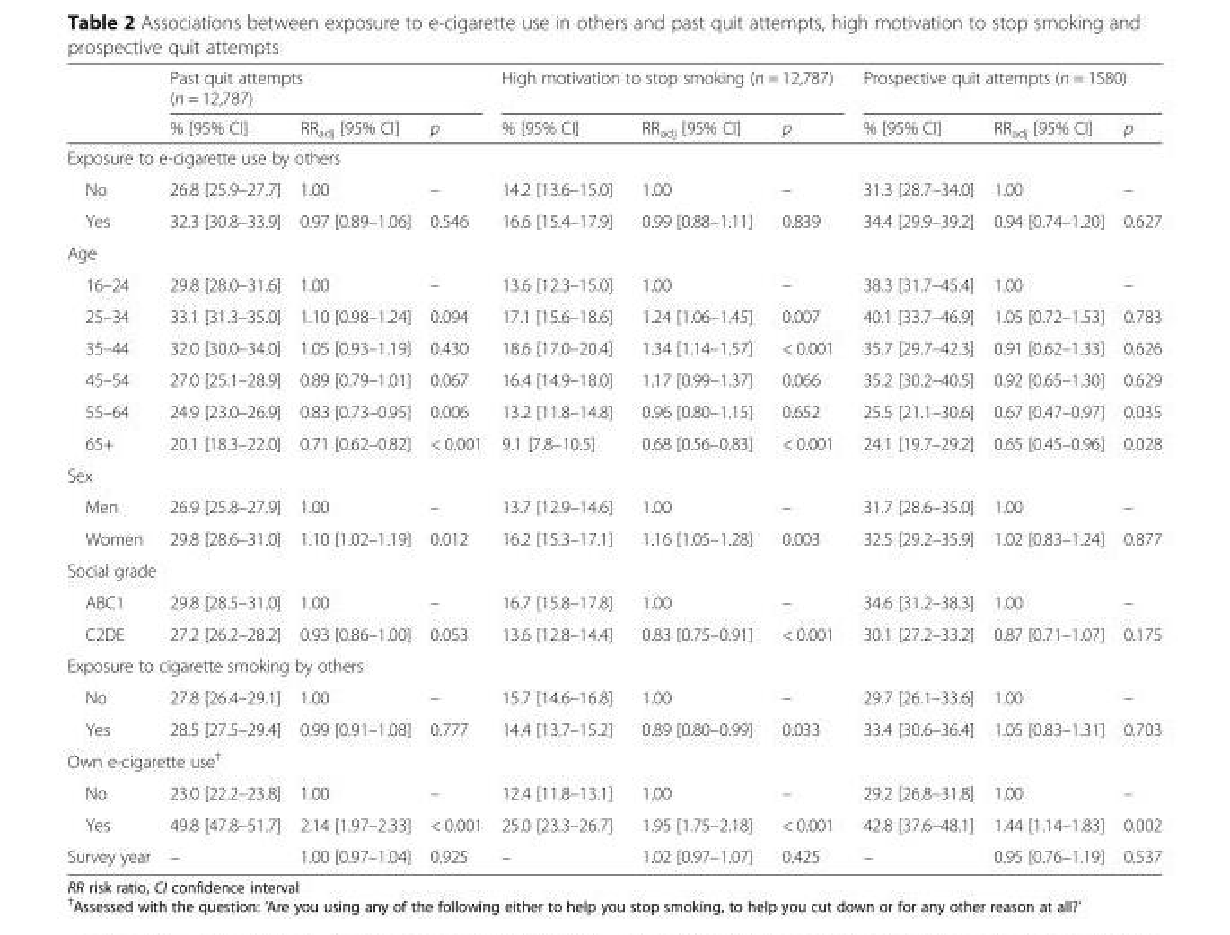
<table><thead><tr><td rowspan="2"></td><td colspan="3">Past quit attempts (n = 12,787)</td><td colspan="3">High motivation to stop smoking (n = 12,787)</td><td colspan="3">Prospective quit attempts (n = 1580)</td></tr><tr><td>% [95% CI]</td><td>RR<sub>adj</sub> [95% CI]</td><td>p</td><td>% [95% CI]</td><td>RR<sub>adj</sub> [95% CI]</td><td>p</td><td>% [95% CI]</td><td>RR<sub>adj</sub> [95% CI]</td><td>p</td></tr></thead><tbody><tr><td colspan="10">Exposure to e-cigarette use by others</td></tr><tr><td>No</td><td>26.8 [25.9–27.7]</td><td>1.00</td><td>–</td><td>14.2 [13.6–15.0]</td><td>1.00</td><td>–</td><td>31.3 [28.7–34.0]</td><td>1.00</td><td>–</td></tr><tr><td>Yes</td><td>32.3 [30.8–33.9]</td><td>0.97 [0.89–1.06]</td><td>0.546</td><td>16.6 [15.4–17.9]</td><td>0.99 [0.88–1.11]</td><td>0.839</td><td>34.4 [29.9–39.2]</td><td>0.94 [0.74–1.20]</td><td>0.627</td></tr><tr><td colspan="10">Age</td></tr><tr><td>16–24</td><td>29.8 [28.0–31.6]</td><td>1.00</td><td>–</td><td>13.6 [12.3–15.0]</td><td>1.00</td><td>–</td><td>38.3 [31.7–45.4]</td><td>1.00</td><td>–</td></tr><tr><td>25–34</td><td>33.1 [31.3–35.0]</td><td>1.10 [0.98–1.24]</td><td>0.094</td><td>17.1 [15.6–18.6]</td><td>1.24 [1.06–1.45]</td><td>0.007</td><td>40.1 [33.7–46.9]</td><td>1.05 [0.72–1.53]</td><td>0.783</td></tr><tr><td>35–44</td><td>32.0 [30.0–34.0]</td><td>1.05 [0.93–1.19]</td><td>0.430</td><td>18.6 [17.0–20.4]</td><td>1.34 [1.14–1.57]</td><td>&lt; 0.001</td><td>35.7 [29.7–42.3]</td><td>0.91 [0.62–1.33]</td><td>0.626</td></tr><tr><td>45–54</td><td>27.0 [25.1–28.9]</td><td>0.89 [0.79–1.01]</td><td>0.067</td><td>16.4 [14.9–18.0]</td><td>1.17 [0.99–1.37]</td><td>0.066</td><td>35.2 [30.2–40.5]</td><td>0.92 [0.65–1.30]</td><td>0.629</td></tr><tr><td>55–64</td><td>24.9 [23.0–26.9]</td><td>0.83 [0.73–0.95]</td><td>0.006</td><td>13.2 [11.8–14.8]</td><td>0.96 [0.80–1.15]</td><td>0.652</td><td>25.5 [21.1–30.6]</td><td>0.67 [0.47–0.97]</td><td>0.035</td></tr><tr><td>65+</td><td>20.1 [18.3–22.0]</td><td>0.71 [0.62–0.82]</td><td>&lt; 0.001</td><td>9.1 [7.8–10.5]</td><td>0.68 [0.56–0.83]</td><td>&lt; 0.001</td><td>24.1 [19.7–29.2]</td><td>0.65 [0.45–0.96]</td><td>0.028</td></tr><tr><td colspan="10">Sex</td></tr><tr><td>Men</td><td>26.9 [25.8–27.9]</td><td>1.00</td><td>–</td><td>13.7 [12.9–14.6]</td><td>1.00</td><td>–</td><td>31.7 [28.6–35.0]</td><td>1.00</td><td>–</td></tr><tr><td>Women</td><td>29.8 [28.6–31.0]</td><td>1.10 [1.02–1.19]</td><td>0.012</td><td>16.2 [15.3–17.1]</td><td>1.16 [1.05–1.28]</td><td>0.003</td><td>32.5 [29.2–35.9]</td><td>1.02 [0.83–1.24]</td><td>0.877</td></tr><tr><td colspan="10">Social grade</td></tr><tr><td>ABC1</td><td>29.8 [28.5–31.0]</td><td>1.00</td><td>–</td><td>16.7 [15.8–17.8]</td><td>1.00</td><td>–</td><td>34.6 [31.2–38.3]</td><td>1.00</td><td>–</td></tr><tr><td>C2DE</td><td>27.2 [26.2–28.2]</td><td>0.93 [0.86–1.00]</td><td>0.053</td><td>13.6 [12.8–14.4]</td><td>0.83 [0.75–0.91]</td><td>&lt; 0.001</td><td>30.1 [27.2–33.2]</td><td>0.87 [0.71–1.07]</td><td>0.175</td></tr><tr><td colspan="10">Exposure to cigarette smoking by others</td></tr><tr><td>No</td><td>27.8 [26.4–29.1]</td><td>1.00</td><td>–</td><td>15.7 [14.6–16.8]</td><td>1.00</td><td>–</td><td>29.7 [26.1–33.6]</td><td>1.00</td><td>–</td></tr><tr><td>Yes</td><td>28.5 [27.5–29.4]</td><td>0.99 [0.91–1.08]</td><td>0.777</td><td>14.4 [13.7–15.2]</td><td>0.89 [0.80–0.99]</td><td>0.033</td><td>33.4 [30.6–36.4]</td><td>1.05 [0.83–1.31]</td><td>0.703</td></tr><tr><td colspan="10">Own e-cigarette use<sup>†</sup></td></tr><tr><td>No</td><td>23.0 [22.2–23.8]</td><td>1.00</td><td>–</td><td>12.4 [11.8–13.1]</td><td>1.00</td><td>–</td><td>29.2 [26.8–31.8]</td><td>1.00</td><td>–</td></tr><tr><td>Yes</td><td>49.8 [47.8–51.7]</td><td>2.14 [1.97–2.33]</td><td>&lt; 0.001</td><td>25.0 [23.3–26.7]</td><td>1.95 [1.75–2.18]</td><td>&lt; 0.001</td><td>42.8 [37.6–48.1]</td><td>1.44 [1.14–1.83]</td><td>0.002</td></tr><tr><td>Survey year</td><td>–</td><td>1.00 [0.97–1.04]</td><td>0.925</td><td>–</td><td>1.02 [0.97–1.07]</td><td>0.425</td><td>–</td><td>0.95 [0.76–1.19]</td><td>0.537</td></tr></tbody></table>